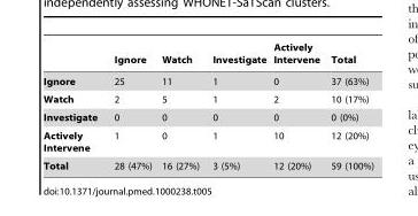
<table><thead><tr><td></td><td>Ignore</td><td>Watch</td><td>Investigate</td><td>Actively Intervene</td><td>Total</td></tr></thead><tbody><tr><td>Ignore</td><td>25</td><td>11</td><td>1</td><td>0</td><td>37 (63%)</td></tr><tr><td>Watch</td><td>2</td><td>5</td><td>1</td><td>2</td><td>10 (17%)</td></tr><tr><td>Investigate</td><td>0</td><td>0</td><td>0</td><td>0</td><td>0 (0%)</td></tr><tr><td>Actively Intervene</td><td>1</td><td>0</td><td>1</td><td>10</td><td>12 (20%)</td></tr><tr><td>Total</td><td>28 (47%)</td><td>16 (27%)</td><td>3 (5%)</td><td>12 (20%)</td><td>59 (100%)</td></tr></tbody></table>